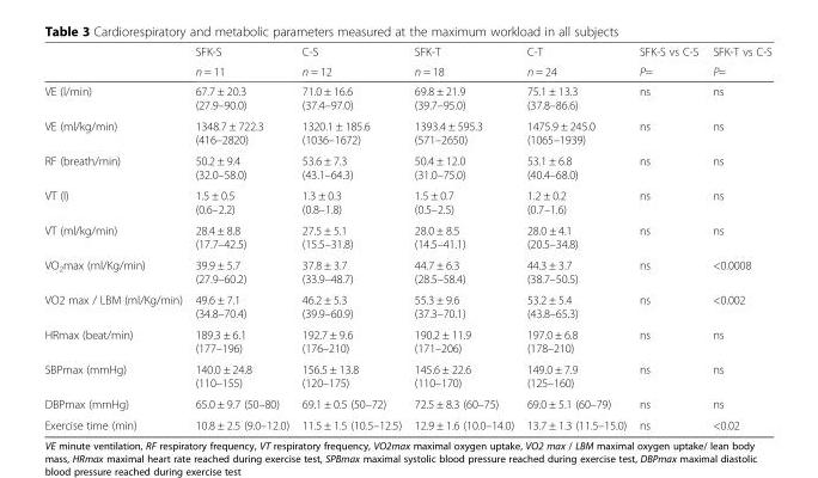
<table><thead><tr><td rowspan="2"></td><td rowspan="2">SFK-S n = 11</td><td rowspan="2">C-S n = 12</td><td rowspan="2">SFK-T n = 18</td><td rowspan="2">C-T n = 24</td><td rowspan="2">SFK-S vs C-S P=</td><td rowspan="2">SFK-T vs C-S P=</td></tr><tr></tr></thead><tbody><tr><td>VE (l/min)</td><td>67.7 ± 20.3 (27.9–90.0)</td><td>71.0 ± 16.6 (37.4–97.0)</td><td>69.8 ± 21.9 (39.7–95.0)</td><td>75.1 ± 13.3 (37.8–86.6)</td><td>ns</td><td>ns</td></tr><tr><td>VE (ml/kg/min)</td><td>1348.7 ± 722.3 (416–2820)</td><td>1320.1 ± 185.6 (1036–1672)</td><td>1393.4 ± 595.3 (571–2650)</td><td>1475.9 ± 245.0 (1065–1939)</td><td>ns</td><td>ns</td></tr><tr><td>RF (breath/min)</td><td>50.2 ± 9.4 (32.0–58.0)</td><td>53.6 ± 7.3 (43.1–64.3)</td><td>50.4 ± 12.0 (31.0–75.0)</td><td>53.1 ± 6.8 (40.4–68.0)</td><td>ns</td><td>ns</td></tr><tr><td>VT (l)</td><td>1.5 ± 0.5 (0.6–2.2)</td><td>1.3 ± 0.3 (0.8–1.8)</td><td>1.5 ± 0.7 (0.5–2.5)</td><td>1.2 ± 0.2 (0.7–1.6)</td><td>ns</td><td>ns</td></tr><tr><td>VT (ml/kg/min)</td><td>28.4 ± 8.8 (17.7–42.5)</td><td>27.5 ± 5.1 (15.5–31.8)</td><td>28.0 ± 8.5 (14.5–41.1)</td><td>28.0 ± 4.1 (20.5–34.8)</td><td>ns</td><td>ns</td></tr><tr><td>VO<sub>2</sub>max (ml/Kg/min)</td><td>39.9 ± 5.7 (27.9–60.2)</td><td>37.8 ± 3.7 (33.9–48.7)</td><td>44.7 ± 6.3 (28.5–58.4)</td><td>44.3 ± 3.7 (38.7–50.5)</td><td>ns</td><td>&lt;0.0008</td></tr><tr><td>VO2 max / LBM (ml/Kg/min)</td><td>49.6 ± 7.1 (34.8–70.4)</td><td>46.2 ± 5.3 (39.9–60.9)</td><td>55.3 ± 9.6 (37.3–70.1)</td><td>53.2 ± 5.4 (43.8–65.3)</td><td>ns</td><td>&lt;0.002</td></tr><tr><td>HRmax (beat/min)</td><td>189.3 ± 6.1 (177–196)</td><td>192.7 ± 9.6 (176–210)</td><td>190.2 ± 11.9 (171–206)</td><td>197.0 ± 6.8 (178–210)</td><td>ns</td><td>ns</td></tr><tr><td>SBPmax (mmHg)</td><td>140.0 ± 24.8 (110–155)</td><td>156.5 ± 13.8 (120–175)</td><td>145.6 ± 22.6 (110–170)</td><td>149.0 ± 7.9 (125–160)</td><td>ns</td><td>ns</td></tr><tr><td>DBPmax (mmHg)</td><td>65.0 ± 9.7 (50–80)</td><td>69.1 ± 0.5 (50–72)</td><td>72.5 ± 8.3 (60–75)</td><td>69.0 ± 5.1 (60–79)</td><td>ns</td><td>ns</td></tr><tr><td>Exercise time (min)</td><td>10.8 ± 2.5 (9.0–12.0)</td><td>11.5 ± 1.5 (10.5–12.5)</td><td>12.9 ± 1.6 (10.0–14.0)</td><td>13.7 ± 1.3 (11.5–15.0)</td><td>ns</td><td>&lt;0.02</td></tr></tbody></table>